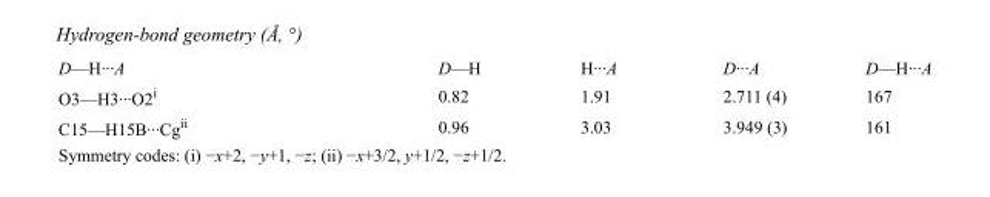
<table><tbody><tr><td>D—H···A</td><td>D—H</td><td>H···A</td><td>D···A</td><td>D—H···A</td></tr><tr><td>O3—H3···O2<sup>i</sup></td><td>0.82</td><td>1.91</td><td>2.711 (4)</td><td>167</td></tr><tr><td>C15—H15B···Cg<sup>ii</sup></td><td>0.96</td><td>3.03</td><td>3.949 (3)</td><td>161</td></tr></tbody></table>